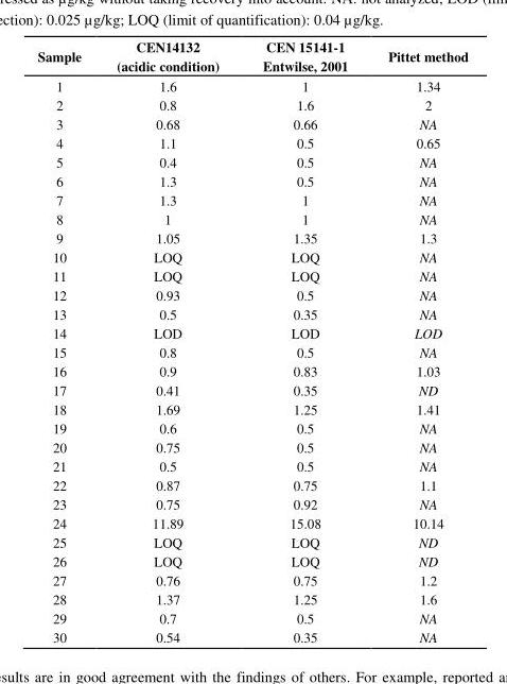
<table><thead><tr><td>Sample</td><td>CEN14132 (acidic condition)</td><td>CEN 15141-1 Entwilse, 2001</td><td>Pittet method</td></tr></thead><tbody><tr><td>1</td><td>1.6</td><td>1</td><td>1.34</td></tr><tr><td>2</td><td>0.8</td><td>1.6</td><td>2</td></tr><tr><td>3</td><td>0.68</td><td>0.66</td><td>NA</td></tr><tr><td>4</td><td>1.1</td><td>0.5</td><td>0.65</td></tr><tr><td>5</td><td>0.4</td><td>0.5</td><td>NA</td></tr><tr><td>6</td><td>1.3</td><td>0.5</td><td>NA</td></tr><tr><td>7</td><td>1.3</td><td>1</td><td>NA</td></tr><tr><td>8</td><td>1</td><td>1</td><td>NA</td></tr><tr><td>9</td><td>1.05</td><td>1.35</td><td>1.3</td></tr><tr><td>10</td><td>LOQ</td><td>LOQ</td><td>NA</td></tr><tr><td>11</td><td>LOQ</td><td>LOQ</td><td>NA</td></tr><tr><td>12</td><td>0.93</td><td>0.5</td><td>NA</td></tr><tr><td>13</td><td>0.5</td><td>0.35</td><td>NA</td></tr><tr><td>14</td><td>LOD</td><td>LOD</td><td>LOD</td></tr><tr><td>15</td><td>0.8</td><td>0.5</td><td>NA</td></tr><tr><td>16</td><td>0.9</td><td>0.83</td><td>1.03</td></tr><tr><td>17</td><td>0.41</td><td>0.35</td><td>ND</td></tr><tr><td>18</td><td>1.69</td><td>1.25</td><td>1.41</td></tr><tr><td>19</td><td>0.6</td><td>0.5</td><td>NA</td></tr><tr><td>20</td><td>0.75</td><td>0.5</td><td>NA</td></tr><tr><td>21</td><td>0.5</td><td>0.5</td><td>NA</td></tr><tr><td>22</td><td>0.87</td><td>0.75</td><td>1.1</td></tr><tr><td>23</td><td>0.75</td><td>0.92</td><td>NA</td></tr><tr><td>24</td><td>11.89</td><td>15.08</td><td>10.14</td></tr><tr><td>25</td><td>LOQ</td><td>LOQ</td><td>ND</td></tr><tr><td>26</td><td>LOQ</td><td>LOQ</td><td>ND</td></tr><tr><td>27</td><td>0.76</td><td>0.75</td><td>1.2</td></tr><tr><td>28</td><td>1.37</td><td>1.25</td><td>1.6</td></tr><tr><td>29</td><td>0.7</td><td>0.5</td><td>NA</td></tr><tr><td>30</td><td>0.54</td><td>0.35</td><td>NA</td></tr></tbody></table>